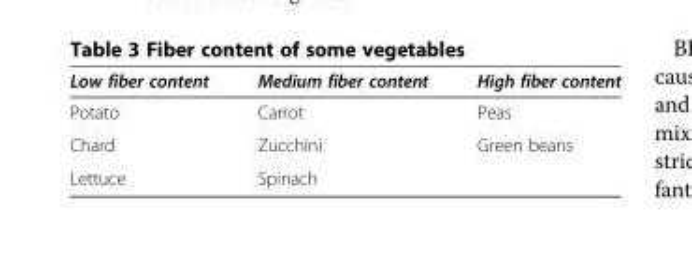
<table><thead><tr><td>Low fiber content</td><td>Medium fiber content</td><td>High fiber content</td></tr></thead><tbody><tr><td>Potato</td><td>Carrot</td><td>Peas</td></tr><tr><td>Chard</td><td>Zucchini</td><td>Green beans</td></tr><tr><td>Lettuce</td><td>Spinach</td><td></td></tr></tbody></table>